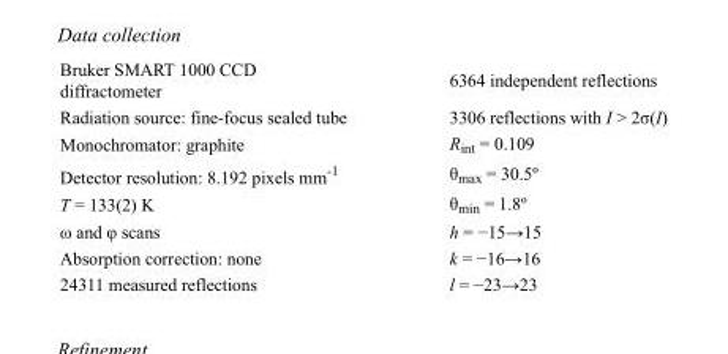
<table><tbody><tr><td>Bruker SMART 1000 CCD diffractometer</td><td>6364 independent reflections</td></tr><tr><td>Radiation source: fine-focus sealed tube</td><td>3306 reflections with I &gt; 2σ(I)</td></tr><tr><td>Monochromator: graphite</td><td>R<sub>int</sub> = 0.109</td></tr><tr><td>Detector resolution: 8.192 pixels mm<sup>-1</sup></td><td>θ<sub>max</sub> = 30.5º</td></tr><tr><td>T = 133(2) K</td><td>θ<sub>min</sub> = 1.8º</td></tr><tr><td>ω and φ scans</td><td>h = −15→15</td></tr><tr><td>Absorption correction: none</td><td>k = −16→16</td></tr><tr><td>24311 measured reflections</td><td>l = −23→23</td></tr></tbody></table>